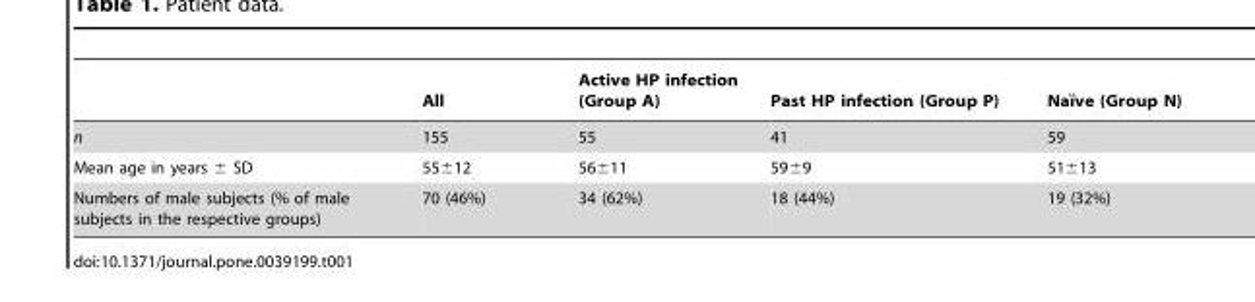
<table><thead><tr><td></td><td>All</td><td>Active HP infection (Group A)</td><td>Past HP infection (Group P)</td><td>Naı¨ve (Group N)</td></tr></thead><tbody><tr><td>n</td><td>155</td><td>55</td><td>41</td><td>59</td></tr><tr><td>Mean age in years ± SD</td><td>55±12</td><td>56±11</td><td>59±9</td><td>51±13</td></tr><tr><td>Numbers of male subjects (% of male subjects in the respective groups)</td><td>70 (46%)</td><td>34 (62%)</td><td>18 (44%)</td><td>19 (32%)</td></tr></tbody></table>